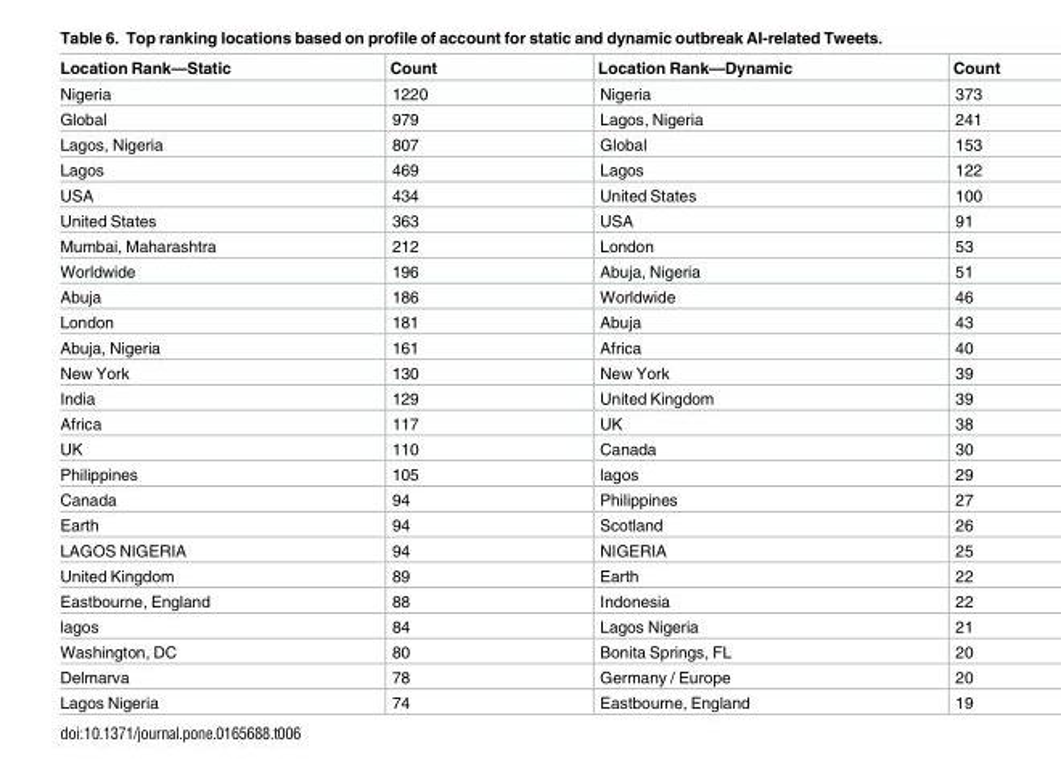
<table><thead><tr><td>Location Rank—Static</td><td>Count</td><td>Location Rank—Dynamic</td><td>Count</td></tr></thead><tbody><tr><td>Nigeria</td><td>1220</td><td>Nigeria</td><td>373</td></tr><tr><td>Global</td><td>979</td><td>Lagos, Nigeria</td><td>241</td></tr><tr><td>Lagos, Nigeria</td><td>807</td><td>Global</td><td>153</td></tr><tr><td>Lagos</td><td>469</td><td>Lagos</td><td>122</td></tr><tr><td>USA</td><td>434</td><td>United States</td><td>100</td></tr><tr><td>United States</td><td>363</td><td>USA</td><td>91</td></tr><tr><td>Mumbai, Maharashtra</td><td>212</td><td>London</td><td>53</td></tr><tr><td>Worldwide</td><td>196</td><td>Abuja, Nigeria</td><td>51</td></tr><tr><td>Abuja</td><td>186</td><td>Worldwide</td><td>46</td></tr><tr><td>London</td><td>181</td><td>Abuja</td><td>43</td></tr><tr><td>Abuja, Nigeria</td><td>161</td><td>Africa</td><td>40</td></tr><tr><td>New York</td><td>130</td><td>New York</td><td>39</td></tr><tr><td>India</td><td>129</td><td>United Kingdom</td><td>39</td></tr><tr><td>Africa</td><td>117</td><td>UK</td><td>38</td></tr><tr><td>UK</td><td>110</td><td>Canada</td><td>30</td></tr><tr><td>Philippines</td><td>105</td><td>lagos</td><td>29</td></tr><tr><td>Canada</td><td>94</td><td>Philippines</td><td>27</td></tr><tr><td>Earth</td><td>94</td><td>Scotland</td><td>26</td></tr><tr><td>LAGOS NIGERIA</td><td>94</td><td>NIGERIA</td><td>25</td></tr><tr><td>United Kingdom</td><td>89</td><td>Earth</td><td>22</td></tr><tr><td>Eastbourne, England</td><td>88</td><td>Indonesia</td><td>22</td></tr><tr><td>lagos</td><td>84</td><td>Lagos Nigeria</td><td>21</td></tr><tr><td>Washington, DC</td><td>80</td><td>Bonita Springs, FL</td><td>20</td></tr><tr><td>Delmarva</td><td>78</td><td>Germany / Europe</td><td>20</td></tr><tr><td>Lagos Nigeria</td><td>74</td><td>Eastbourne, England</td><td>19</td></tr></tbody></table>